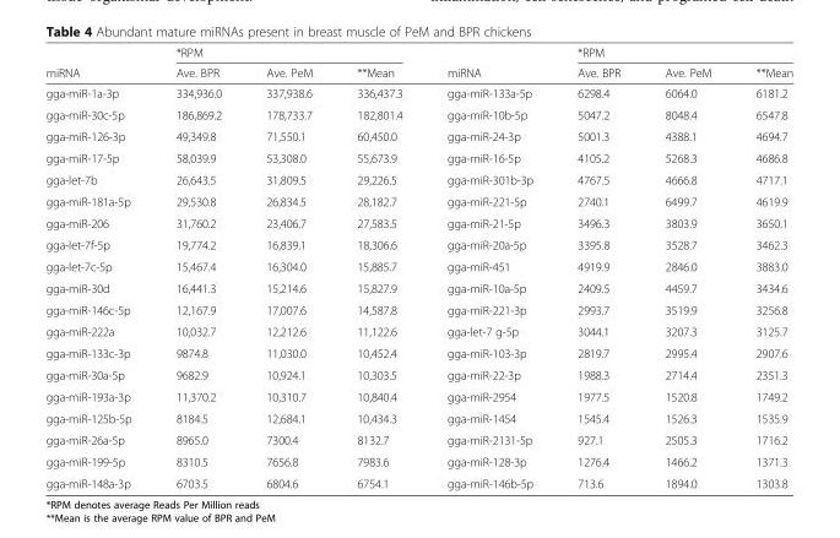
<table><thead><tr><td rowspan="2">miRNA</td><td colspan="3">*RPM</td><td rowspan="2">miRNA</td><td colspan="3">*RPM</td></tr><tr><td>Ave. BPR</td><td>Ave. PeM</td><td>**Mean</td><td>Ave. BPR</td><td>Ave. PeM</td><td>**Mean</td></tr></thead><tbody><tr><td>gga-miR-1a-3p</td><td>334,936.0</td><td>337,938.6</td><td>336,437.3</td><td>gga-miR-133a-5p</td><td>6298.4</td><td>6064.0</td><td>6181.2</td></tr><tr><td>gga-miR-30c-5p</td><td>186,869.2</td><td>178,733.7</td><td>182,801.4</td><td>gga-miR-10b-5p</td><td>5047.2</td><td>8048.4</td><td>6547.8</td></tr><tr><td>gga-miR-126-3p</td><td>49,349.8</td><td>71,550.1</td><td>60,450.0</td><td>gga-miR-24-3p</td><td>5001.3</td><td>4388.1</td><td>4694.7</td></tr><tr><td>gga-miR-17-5p</td><td>58,039.9</td><td>53,308.0</td><td>55,673.9</td><td>gga-miR-16-5p</td><td>4105.2</td><td>5268.3</td><td>4686.8</td></tr><tr><td>gga-let-7b</td><td>26,643.5</td><td>31,809.5</td><td>29,226.5</td><td>gga-miR-301b-3p</td><td>4767.5</td><td>4666.8</td><td>4717.1</td></tr><tr><td>gga-miR-181a-5p</td><td>29,530.8</td><td>26,834.5</td><td>28,182.7</td><td>gga-miR-221-5p</td><td>2740.1</td><td>6499.7</td><td>4619.9</td></tr><tr><td>gga-miR-206</td><td>31,760.2</td><td>23,406.7</td><td>27,583.5</td><td>gga-miR-21-5p</td><td>3496.3</td><td>3803.9</td><td>3650.1</td></tr><tr><td>gga-let-7f-5p</td><td>19,774.2</td><td>16,839.1</td><td>18,306.6</td><td>gga-miR-20a-5p</td><td>3395.8</td><td>3528.7</td><td>3462.3</td></tr><tr><td>gga-let-7c-5p</td><td>15,467.4</td><td>16,304.0</td><td>15,885.7</td><td>gga-miR-451</td><td>4919.9</td><td>2846.0</td><td>3883.0</td></tr><tr><td>gga-miR-30d</td><td>16,441.3</td><td>15,214.6</td><td>15,827.9</td><td>gga-miR-10a-5p</td><td>2409.5</td><td>4459.7</td><td>3434.6</td></tr><tr><td>gga-miR-146c-5p</td><td>12,167.9</td><td>17,007.6</td><td>14,587.8</td><td>gga-miR-221-3p</td><td>2993.7</td><td>3519.9</td><td>3256.8</td></tr><tr><td>gga-miR-222a</td><td>10,032.7</td><td>12,212.6</td><td>11,122.6</td><td>gga-let-7 g-5p</td><td>3044.1</td><td>3207.3</td><td>3125.7</td></tr><tr><td>gga-miR-133c-3p</td><td>9874.8</td><td>11,030.0</td><td>10,452.4</td><td>gga-miR-103-3p</td><td>2819.7</td><td>2995.4</td><td>2907.6</td></tr><tr><td>gga-miR-30a-5p</td><td>9682.9</td><td>10,924.1</td><td>10,303.5</td><td>gga-miR-22-3p</td><td>1988.3</td><td>2714.4</td><td>2351.3</td></tr><tr><td>gga-miR-193a-3p</td><td>11,370.2</td><td>10,310.7</td><td>10,840.4</td><td>gga-miR-2954</td><td>1977.5</td><td>1520.8</td><td>1749.2</td></tr><tr><td>gga-miR-125b-5p</td><td>8184.5</td><td>12,684.1</td><td>10,434.3</td><td>gga-miR-1454</td><td>1545.4</td><td>1526.3</td><td>1535.9</td></tr><tr><td>gga-miR-26a-5p</td><td>8965.0</td><td>7300.4</td><td>8132.7</td><td>gga-miR-2131-5p</td><td>927.1</td><td>2505.3</td><td>1716.2</td></tr><tr><td>gga-miR-199-5p</td><td>8310.5</td><td>7656.8</td><td>7983.6</td><td>gga-miR-128-3p</td><td>1276.4</td><td>1466.2</td><td>1371.3</td></tr><tr><td>gga-miR-148a-3p</td><td>6703.5</td><td>6804.6</td><td>6754.1</td><td>gga-miR-146b-5p</td><td>713.6</td><td>1894.0</td><td>1303.8</td></tr></tbody></table>